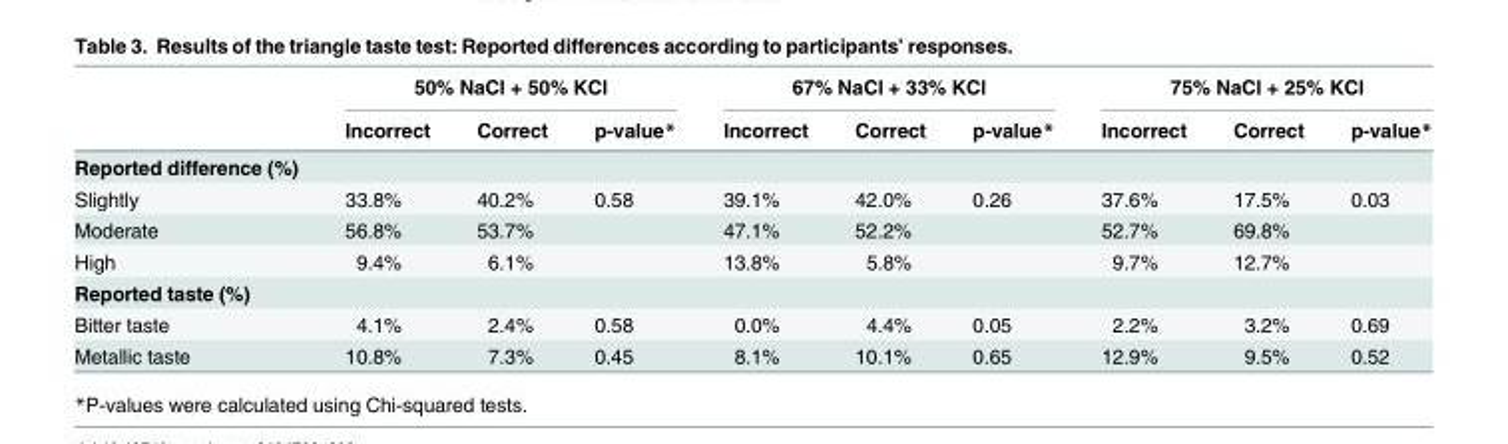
<table><thead><tr><td rowspan="2"></td><td colspan="3">50% NaCl + 50% KCl</td><td colspan="3">67% NaCl + 33% KCl</td><td colspan="3">75% NaCl + 25% KCl</td></tr><tr><td>Incorrect</td><td>Correct</td><td>p-value*</td><td>Incorrect</td><td>Correct</td><td>p-value*</td><td>Incorrect</td><td>Correct</td><td>p-value*</td></tr></thead><tbody><tr><td colspan="10">Reported difference (%)</td></tr><tr><td>Slightly</td><td>33.8%</td><td>40.2%</td><td>0.58</td><td>39.1%</td><td>42.0%</td><td>0.26</td><td>37.6%</td><td>17.5%</td><td>0.03</td></tr><tr><td>Moderate</td><td>56.8%</td><td>53.7%</td><td></td><td>47.1%</td><td>52.2%</td><td></td><td>52.7%</td><td>69.8%</td><td></td></tr><tr><td>High</td><td>9.4%</td><td>6.1%</td><td></td><td>13.8%</td><td>5.8%</td><td></td><td>9.7%</td><td>12.7%</td><td></td></tr><tr><td colspan="10">Reported taste (%)</td></tr><tr><td>Bitter taste</td><td>4.1%</td><td>2.4%</td><td>0.58</td><td>0.0%</td><td>4.4%</td><td>0.05</td><td>2.2%</td><td>3.2%</td><td>0.69</td></tr><tr><td>Metallic taste</td><td>10.8%</td><td>7.3%</td><td>0.45</td><td>8.1%</td><td>10.1%</td><td>0.65</td><td>12.9%</td><td>9.5%</td><td>0.52</td></tr></tbody></table>